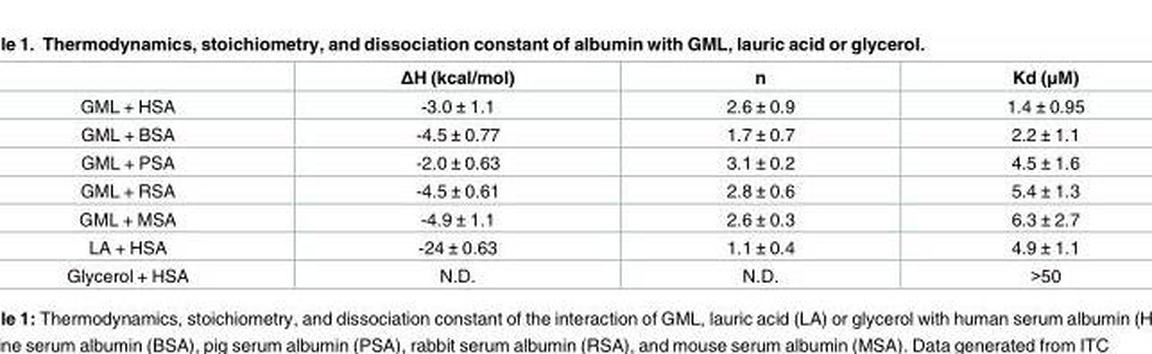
<table><thead><tr><td></td><td>ΔH (kcal/mol)</td><td>n</td><td>Kd (μM)</td></tr></thead><tbody><tr><td>GML + HSA</td><td>-3.0 ± 1.1</td><td>2.6 ± 0.9</td><td>1.4 ± 0.95</td></tr><tr><td>GML + BSA</td><td>-4.5 ± 0.77</td><td>1.7 ± 0.7</td><td>2.2 ± 1.1</td></tr><tr><td>GML + PSA</td><td>-2.0 ± 0.63</td><td>3.1 ± 0.2</td><td>4.5 ± 1.6</td></tr><tr><td>GML + RSA</td><td>-4.5 ± 0.61</td><td>2.8 ± 0.6</td><td>5.4 ± 1.3</td></tr><tr><td>GML + MSA</td><td>-4.9 ± 1.1</td><td>2.6 ± 0.3</td><td>6.3 ± 2.7</td></tr><tr><td>LA + HSA</td><td>-24 ± 0.63</td><td>1.1 ± 0.4</td><td>4.9 ± 1.1</td></tr><tr><td>Glycerol + HSA</td><td>N.D.</td><td>N.D.</td><td>&gt;50</td></tr></tbody></table>